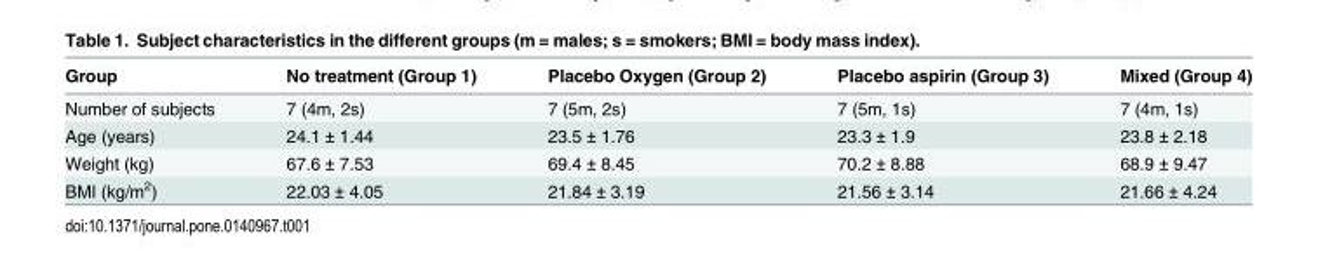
<table><thead><tr><td>Group</td><td>No treatment (Group 1)</td><td>Placebo Oxygen (Group 2)</td><td>Placebo aspirin (Group 3)</td><td>Mixed (Group 4)</td></tr></thead><tbody><tr><td>Number of subjects</td><td>7 (4m, 2s)</td><td>7 (5m, 2s)</td><td>7 (5m, 1s)</td><td>7 (4m, 1s)</td></tr><tr><td>Age (years)</td><td>24.1 ± 1.44</td><td>23.5 ± 1.76</td><td>23.3 ± 1.9</td><td>23.8 ± 2.18</td></tr><tr><td>Weight (kg)</td><td>67.6 ± 7.53</td><td>69.4 ± 8.45</td><td>70.2 ± 8.88</td><td>68.9 ± 9.47</td></tr><tr><td>BMI (kg/m<sup>2</sup>)</td><td>22.03 ± 4.05</td><td>21.84 ± 3.19</td><td>21.56 ± 3.14</td><td>21.66 ± 4.24</td></tr></tbody></table>